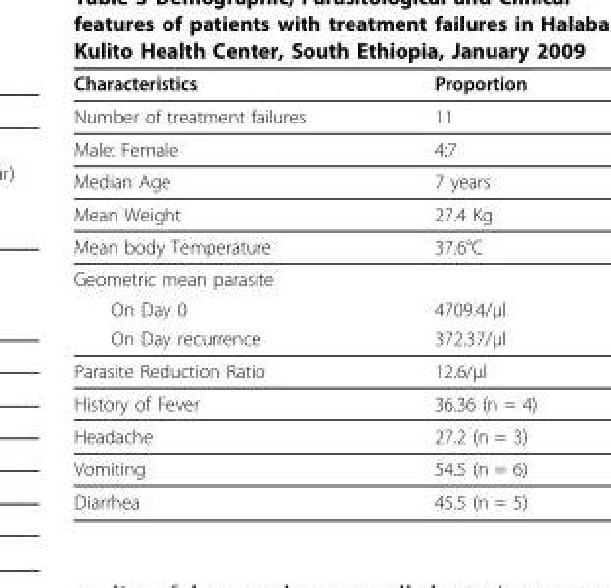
<table><thead><tr><td>Characteristics</td><td>Proportion</td></tr></thead><tbody><tr><td>Number of treatment failures</td><td>11</td></tr><tr><td>Male: Female</td><td>4:7</td></tr><tr><td>Median Age</td><td>7 years</td></tr><tr><td>Mean Weight</td><td>27.4 Kg</td></tr><tr><td>Mean body Temperature</td><td>37.6°C</td></tr><tr><td colspan="2">Geometric mean parasite</td></tr><tr><td>On Day 0</td><td>4709.4/μl</td></tr><tr><td>On Day recurrence</td><td>372.37/μl</td></tr><tr><td>Parasite Reduction Ratio</td><td>12.6/μl</td></tr><tr><td>History of Fever</td><td>36.36 (n = 4)</td></tr><tr><td>Headache</td><td>27.2 (n = 3)</td></tr><tr><td>Vomiting</td><td>54.5 (n = 6)</td></tr><tr><td>Diarrhea</td><td>45.5 (n = 5)</td></tr></tbody></table>